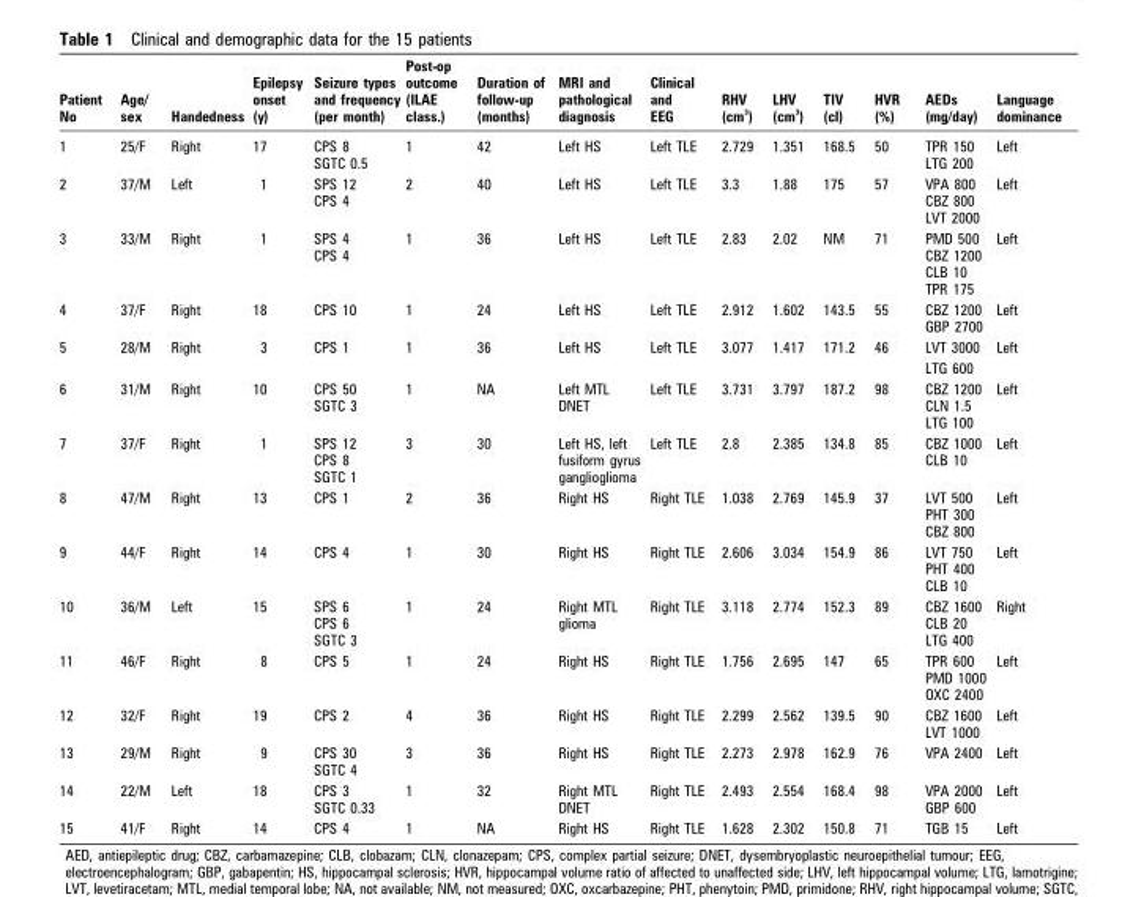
<table><thead><tr><td>Patient No</td><td>Age/ sex</td><td>Handedness</td><td>Epilepsy onset (y)</td><td>Seizure types and frequency (per month)</td><td>Post-op outcome (ILAE class.)</td><td>Duration of follow-up (months)</td><td>MRI and pathological diagnosis</td><td>Clinical and EEG</td><td>RHV (cm <sup>3</sup>)</td><td>LHV (cm <sup>3</sup>)</td><td>TIV (cl)</td><td>HVR (%)</td><td>AEDs (mg/day)</td><td>Language dominance</td></tr></thead><tbody><tr><td>1</td><td>25/F</td><td>Right</td><td>17</td><td>CPS 8 SGTC 0.5</td><td>1</td><td>42</td><td>Left HS</td><td>Left TLE</td><td>2.729</td><td>1.351</td><td>168.5</td><td>50</td><td>TPR 150 LTG 200</td><td>Left</td></tr><tr><td>2</td><td>37/M</td><td>Left</td><td>1</td><td>SPS 12 CPS 4</td><td>2</td><td>40</td><td>Left HS</td><td>Left TLE</td><td>3.3</td><td>1.88</td><td>175</td><td>57</td><td>VPA 800 CBZ 800 LVT 2000</td><td>Left</td></tr><tr><td>3</td><td>33/M</td><td>Right</td><td>1</td><td>SPS 4 CPS 4</td><td>1</td><td>36</td><td>Left HS</td><td>Left TLE</td><td>2.83</td><td>2.02</td><td>NM</td><td>71</td><td>PMD 500 CBZ 1200 CLB 10 TPR 175</td><td>Left</td></tr><tr><td>4</td><td>37/F</td><td>Right</td><td>18</td><td>CPS 10</td><td>1</td><td>24</td><td>Left HS</td><td>Left TLE</td><td>2.912</td><td>1.602</td><td>143.5</td><td>55</td><td>CBZ 1200 GBP 2700</td><td>Left</td></tr><tr><td rowspan="2">5</td><td>28/M</td><td>Right</td><td>3</td><td>CPS 1</td><td>1</td><td>36</td><td>Left HS</td><td>Left TLE</td><td>3.077</td><td>1.417</td><td>171.2</td><td>46</td><td>LVT 3000</td><td>Left</td></tr><tr><td></td><td></td><td></td><td></td><td></td><td></td><td></td><td></td><td></td><td></td><td></td><td></td><td>LTG 600</td><td></td></tr><tr><td>6</td><td>31/M</td><td>Right</td><td>10</td><td>CPS 50 SGTC 3</td><td>1</td><td>NA</td><td>Left MTL DNET</td><td>Left TLE</td><td>3.731</td><td>3.797</td><td>187.2</td><td>98</td><td>CBZ 1200 CLN 1.5 LTG 100</td><td>Left</td></tr><tr><td>7</td><td>37/F</td><td>Right</td><td>1</td><td>SPS 12 CPS 8 SGTC 1</td><td>3</td><td>30</td><td>Left HS, left fusiform gyrus ganglioglioma</td><td>Left TLE</td><td>2.8</td><td>2.385</td><td>134.8</td><td>85</td><td>CBZ 1000 CLB 10</td><td>Left</td></tr><tr><td>8</td><td>47/M</td><td>Right</td><td>13</td><td>CPS 1</td><td>2</td><td>36</td><td>Right HS</td><td>Right TLE</td><td>1.038</td><td>2.769</td><td>145.9</td><td>37</td><td>LVT 500 PHT 300 CBZ 800</td><td>Left</td></tr><tr><td>9</td><td>44/F</td><td>Right</td><td>14</td><td>CPS 4</td><td>1</td><td>30</td><td>Right HS</td><td>Right TLE</td><td>2.606</td><td>3.034</td><td>154.9</td><td>86</td><td>LVT 750 PHT 400 CLB 10</td><td>Left</td></tr><tr><td>10</td><td>36/M</td><td>Left</td><td>15</td><td>SPS 6 CPS 6 SGTC 3</td><td>1</td><td>24</td><td>Right MTL glioma</td><td>Right TLE</td><td>3.118</td><td>2.774</td><td>152.3</td><td>89</td><td>CBZ 1600 CLB 20 LTG 400</td><td>Right</td></tr><tr><td>11</td><td>46/F</td><td>Right</td><td>8</td><td>CPS 5</td><td>1</td><td>24</td><td>Right HS</td><td>Right TLE</td><td>1.756</td><td>2.695</td><td>147</td><td>65</td><td>TPR 600 PMD 1000 OXC 2400</td><td>Left</td></tr><tr><td>12</td><td>32/F</td><td>Right</td><td>19</td><td>CPS 2</td><td>4</td><td>36</td><td>Right HS</td><td>Right TLE</td><td>2.299</td><td>2.562</td><td>139.5</td><td>90</td><td>CBZ 1600 LVT 1000</td><td>Left</td></tr><tr><td>13</td><td>29/M</td><td>Right</td><td>9</td><td>CPS 30 SGTC 4</td><td>3</td><td>36</td><td>Right HS</td><td>Right TLE</td><td>2.273</td><td>2.978</td><td>162.9</td><td>76</td><td>VPA 2400</td><td>Left</td></tr><tr><td>14</td><td>22/M</td><td>Left</td><td>18</td><td>CPS 3 SGTC 0.33</td><td>1</td><td>32</td><td>Right MTL DNET</td><td>Right TLE</td><td>2.493</td><td>2.554</td><td>168.4</td><td>98</td><td>VPA 2000 GBP 600</td><td>Left</td></tr><tr><td>15</td><td>41/F</td><td>Right</td><td>14</td><td>CPS 4</td><td>1</td><td>NA</td><td>Right HS</td><td>Right TLE</td><td>1.628</td><td>2.302</td><td>150.8</td><td>71</td><td>TGB 15</td><td>Left</td></tr></tbody></table>